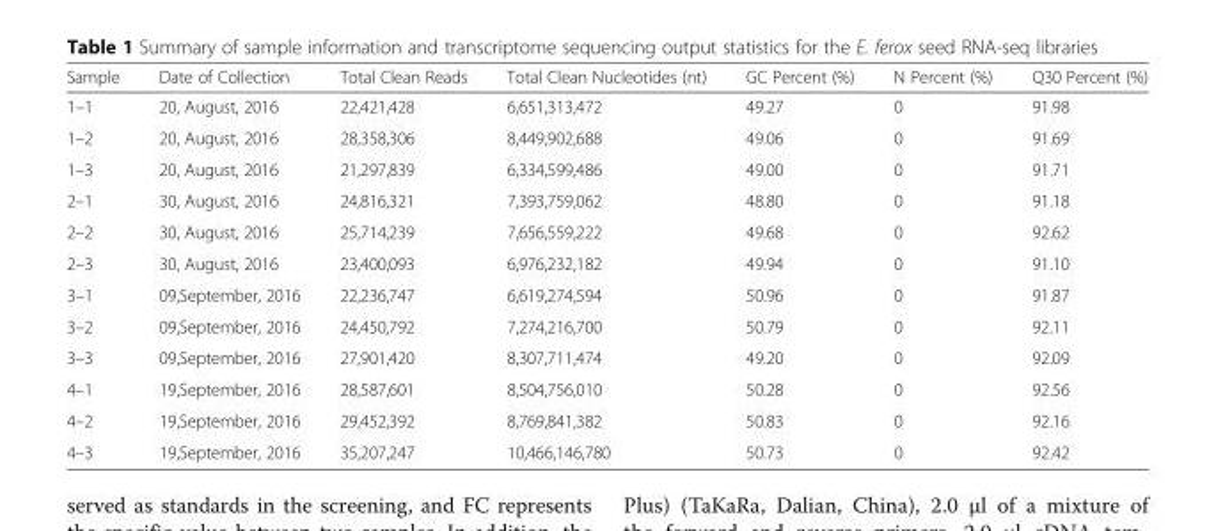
<table><thead><tr><td>Sample</td><td>Date of Collection</td><td>Total Clean Reads</td><td>Total Clean Nucleotides (nt)</td><td>GC Percent (%)</td><td>N Percent (%)</td><td>Q30 Percent (%)</td></tr></thead><tbody><tr><td>1–1</td><td>20, August, 2016</td><td>22,421,428</td><td>6,651,313,472</td><td>49.27</td><td>0</td><td>91.98</td></tr><tr><td>1–2</td><td>20, August, 2016</td><td>28,358,306</td><td>8,449,902,688</td><td>49.06</td><td>0</td><td>91.69</td></tr><tr><td>1–3</td><td>20, August, 2016</td><td>21,297,839</td><td>6,334,599,486</td><td>49.00</td><td>0</td><td>91.71</td></tr><tr><td>2–1</td><td>30, August, 2016</td><td>24,816,321</td><td>7,393,759,062</td><td>48.80</td><td>0</td><td>91.18</td></tr><tr><td>2–2</td><td>30, August, 2016</td><td>25,714,239</td><td>7,656,559,222</td><td>49.68</td><td>0</td><td>92.62</td></tr><tr><td>2–3</td><td>30, August, 2016</td><td>23,400,093</td><td>6,976,232,182</td><td>49.94</td><td>0</td><td>91.10</td></tr><tr><td>3–1</td><td>09,September, 2016</td><td>22,236,747</td><td>6,619,274,594</td><td>50.96</td><td>0</td><td>91.87</td></tr><tr><td>3–2</td><td>09,September, 2016</td><td>24,450,792</td><td>7,274,216,700</td><td>50.79</td><td>0</td><td>92.11</td></tr><tr><td>3–3</td><td>09,September, 2016</td><td>27,901,420</td><td>8,307,711,474</td><td>49.20</td><td>0</td><td>92.09</td></tr><tr><td>4–1</td><td>19,September, 2016</td><td>28,587,601</td><td>8,504,756,010</td><td>50.28</td><td>0</td><td>92.56</td></tr><tr><td>4–2</td><td>19,September, 2016</td><td>29,452,392</td><td>8,769,841,382</td><td>50.83</td><td>0</td><td>92.16</td></tr><tr><td>4–3</td><td>19,September, 2016</td><td>35,207,247</td><td>10,466,146,780</td><td>50.73</td><td>0</td><td>92.42</td></tr></tbody></table>